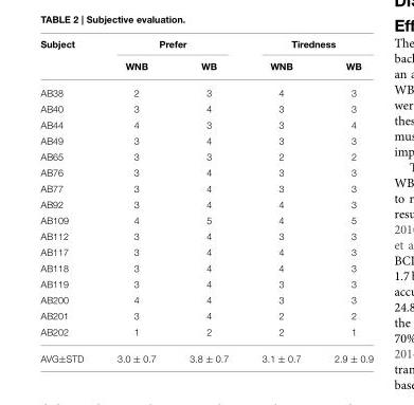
<table><thead><tr><td rowspan="2">Subject</td><td colspan="2">Prefer</td><td colspan="2">Tiredness</td></tr><tr><td>WNB</td><td>WB</td><td>WNB</td><td>WB</td></tr></thead><tbody><tr><td>AB38</td><td>2</td><td>3</td><td>4</td><td>3</td></tr><tr><td>AB40</td><td>3</td><td>4</td><td>3</td><td>3</td></tr><tr><td>AB44</td><td>4</td><td>3</td><td>3</td><td>4</td></tr><tr><td>AB49</td><td>3</td><td>4</td><td>3</td><td>3</td></tr><tr><td>AB65</td><td>3</td><td>3</td><td>2</td><td>2</td></tr><tr><td>AB76</td><td>3</td><td>4</td><td>3</td><td>3</td></tr><tr><td>AB77</td><td>3</td><td>4</td><td>3</td><td>3</td></tr><tr><td>AB92</td><td>3</td><td>4</td><td>4</td><td>3</td></tr><tr><td>AB109</td><td>4</td><td>5</td><td>4</td><td>5</td></tr><tr><td>AB112</td><td>3</td><td>4</td><td>3</td><td>3</td></tr><tr><td>AB117</td><td>3</td><td>4</td><td>4</td><td>3</td></tr><tr><td>AB118</td><td>3</td><td>4</td><td>4</td><td>3</td></tr><tr><td>AB119</td><td>3</td><td>4</td><td>3</td><td>3</td></tr><tr><td>AB200</td><td>4</td><td>4</td><td>3</td><td>3</td></tr><tr><td>AB201</td><td>3</td><td>4</td><td>2</td><td>2</td></tr><tr><td>AB202</td><td>1</td><td>2</td><td>2</td><td>1</td></tr><tr><td>AVG±STD</td><td>3.0 ± 0.7</td><td>3.8 ± 0.7</td><td>3.1 ± 0.7</td><td>2.9 ± 0.9</td></tr></tbody></table>